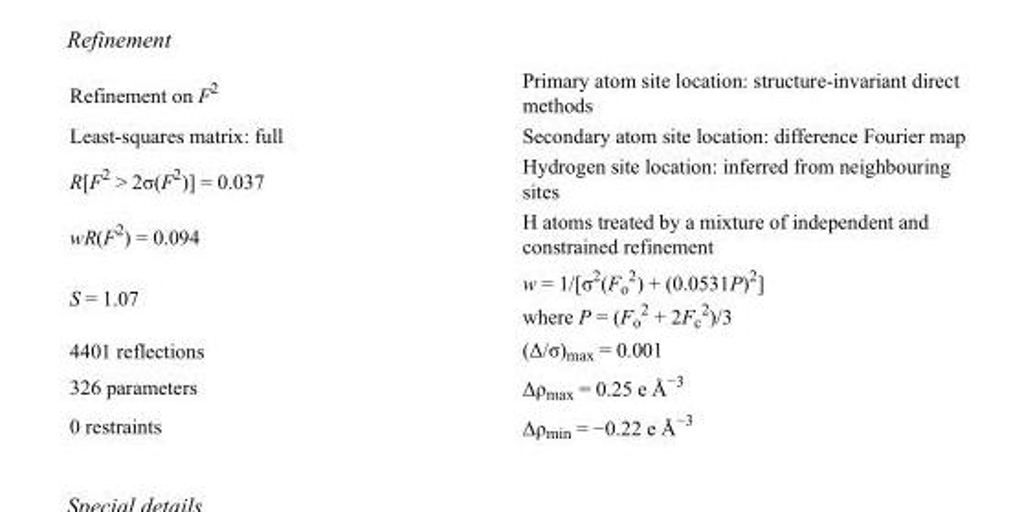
<table><tbody><tr><td>Refinement on F<sup>2</sup></td><td>Primary atom site location: structure-invariant direct methods</td></tr><tr><td>Least-squares matrix: full</td><td>Secondary atom site location: difference Fourier map</td></tr><tr><td>R[F<sup>2</sup> &gt; 2σ(F<sup>2</sup>)] = 0.037</td><td>Hydrogen site location: inferred from neighbouring sites</td></tr><tr><td>wR(F<sup>2</sup>) = 0.094</td><td>H atoms treated by a mixture of independent and constrained refinement</td></tr><tr><td>S = 1.07</td><td>w = 1/[σ<sup>2</sup>(F<sub>o</sub> <sup>2</sup>) + (0.0531P)<sup>2</sup>] where P = (F<sub>o</sub> <sup>2</sup> + 2F<sub>c</sub> <sup>2</sup>)/3</td></tr><tr><td>4401 reflections</td><td>(Δ/σ)<sub>max</sub> = 0.001</td></tr><tr><td>326 parameters</td><td>Δρ<sub>max</sub> = 0.25 e Å<sup>−3</sup></td></tr><tr><td>0 restraints</td><td>Δρ<sub>min</sub> = −0.22 e Å<sup>−3</sup></td></tr></tbody></table>